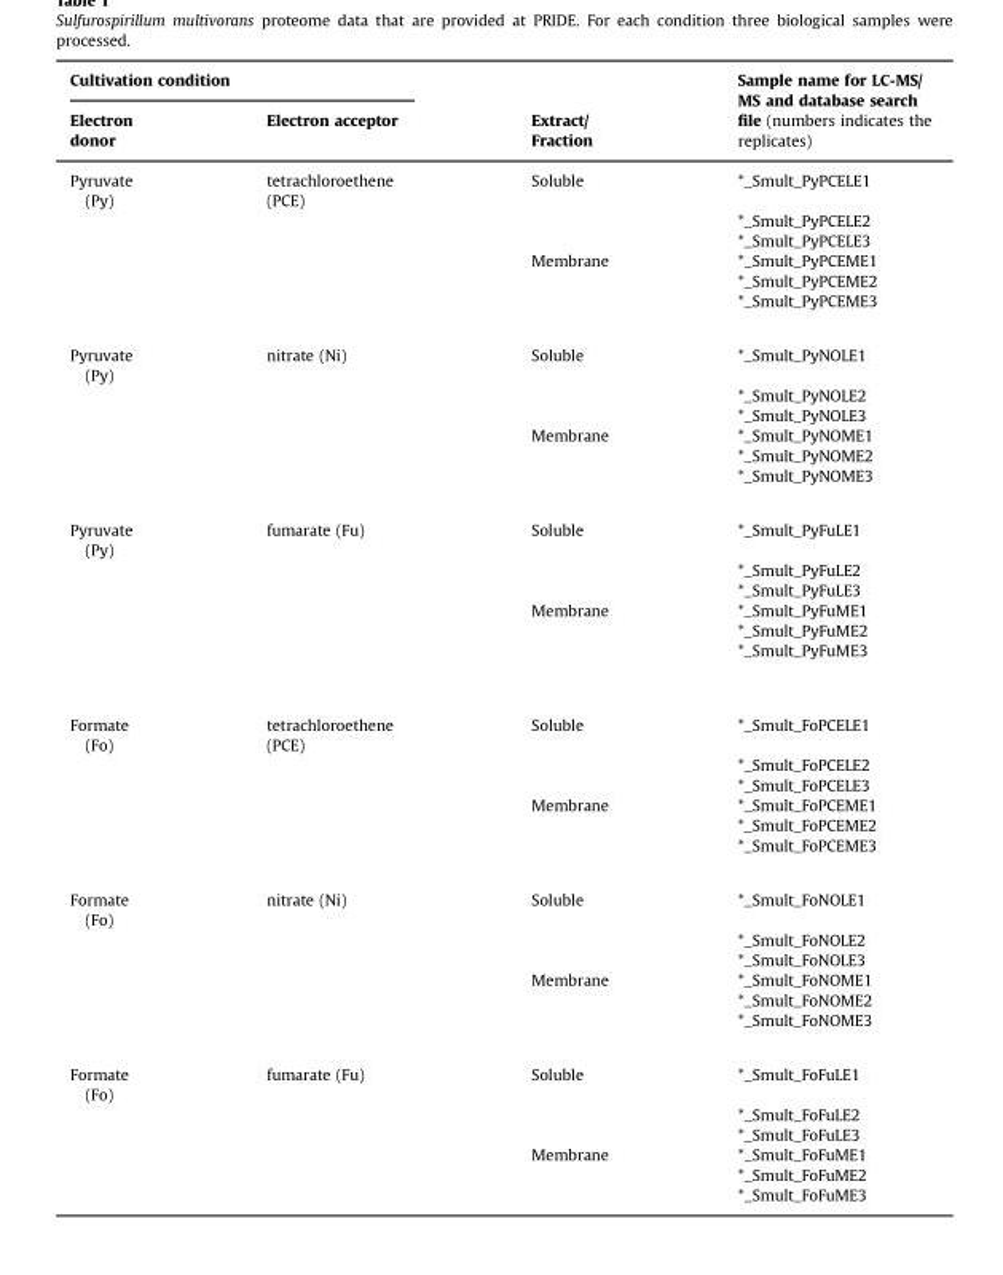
<table><thead><tr><td colspan="2">Cultivation condition</td><td rowspan="2">Extract/ Fraction</td><td rowspan="2">Sample name for LC-MS/ MS and database search file (numbers indicates the replicates)</td></tr><tr><td>Electron donor</td><td>Electron acceptor</td></tr></thead><tbody><tr><td rowspan="6">Pyruvate (Py)</td><td>tetrachloroethene (PCE)</td><td>Soluble</td><td>*_Smult_PyPCELE1</td></tr><tr><td></td><td></td><td>*_Smult_PyPCELE2</td></tr><tr><td></td><td></td><td>*_Smult_PyPCELE3</td></tr><tr><td></td><td>Membrane</td><td>*_Smult_PyPCEME1</td></tr><tr><td></td><td></td><td>*_Smult_PyPCEME2</td></tr><tr><td></td><td></td><td>*_Smult_PyPCEME3</td></tr><tr><td rowspan="6">Pyruvate (Py)</td><td>nitrate (Ni)</td><td>Soluble</td><td>*_Smult_PyNOLE1</td></tr><tr><td></td><td></td><td>*_Smult_PyNOLE2</td></tr><tr><td></td><td></td><td>*_Smult_PyNOLE3</td></tr><tr><td></td><td>Membrane</td><td>*_Smult_PyNOME1</td></tr><tr><td></td><td></td><td>*_Smult_PyNOME2</td></tr><tr><td></td><td></td><td>*_Smult_PyNOME3</td></tr><tr><td rowspan="6">Pyruvate (Py)</td><td>fumarate (Fu)</td><td>Soluble</td><td>*_Smult_PyFuLE1</td></tr><tr><td></td><td></td><td>*_Smult_PyFuLE2</td></tr><tr><td></td><td></td><td>*_Smult_PyFuLE3</td></tr><tr><td></td><td>Membrane</td><td>*_Smult_PyFuME1</td></tr><tr><td></td><td></td><td>*_Smult_PyFuME2</td></tr><tr><td></td><td></td><td>*_Smult_PyFuME3</td></tr><tr><td rowspan="6">Formate (Fo)</td><td>tetrachloroethene (PCE)</td><td>Soluble</td><td>*_Smult_FoPCELE1</td></tr><tr><td></td><td></td><td>*_Smult_FoPCELE2</td></tr><tr><td></td><td></td><td>*_Smult_FoPCELE3</td></tr><tr><td></td><td>Membrane</td><td>*_Smult_FoPCEME1</td></tr><tr><td></td><td></td><td>*_Smult_FoPCEME2</td></tr><tr><td></td><td></td><td>*_Smult_FoPCEME3</td></tr><tr><td rowspan="6">Formate (Fo)</td><td>nitrate (Ni)</td><td>Soluble</td><td>*_Smult_FoNOLE1</td></tr><tr><td></td><td></td><td>*_Smult_FoNOLE2</td></tr><tr><td></td><td></td><td>*_Smult_FoNOLE3</td></tr><tr><td></td><td>Membrane</td><td>*_Smult_FoNOME1</td></tr><tr><td></td><td></td><td>*_Smult_FoNOME2</td></tr><tr><td></td><td></td><td>*_Smult_FoNOME3</td></tr><tr><td rowspan="6">Formate (Fo)</td><td>fumarate (Fu)</td><td>Soluble</td><td>*_Smult_FoFuLE1</td></tr><tr><td></td><td></td><td>*_Smult_FoFuLE2</td></tr><tr><td></td><td></td><td>*_Smult_FoFuLE3</td></tr><tr><td></td><td>Membrane</td><td>*_Smult_FoFuME1</td></tr><tr><td></td><td></td><td>*_Smult_FoFuME2</td></tr><tr><td></td><td></td><td>*_Smult_FoFuME3</td></tr></tbody></table>